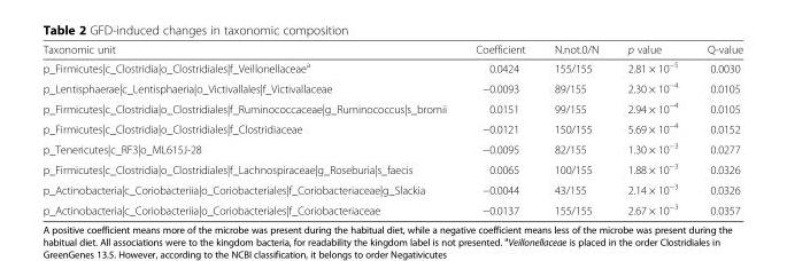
<table><thead><tr><td>Taxonomic unit</td><td>Coefficient</td><td>N.not.0/N</td><td>p value</td><td>Q-value</td></tr></thead><tbody><tr><td>p_Firmicutes|c_Clostridia|o_Clostridiales|f_Veillonellaceae<sup>a</sup></td><td>0.0424</td><td>155/155</td><td>2.81 × 10<sup>−5</sup></td><td>0.0030</td></tr><tr><td>p_Lentisphaerae|c_Lentisphaeria|o_Victivallales|f_Victivallaceae</td><td>−0.0093</td><td>89/155</td><td>2.30 × 10<sup>−4</sup></td><td>0.0105</td></tr><tr><td>p_Firmicutes|c_Clostridia|o_Clostridiales|f_Ruminococcaceae|g_Ruminococcus|s_bromii</td><td>0.0151</td><td>99/155</td><td>2.94 × 10<sup>−4</sup></td><td>0.0105</td></tr><tr><td>p_Firmicutes|c_Clostridia|o_Clostridiales|f_Clostridiaceae</td><td>−0.0121</td><td>150/155</td><td>5.69 × 10<sup>−4</sup></td><td>0.0152</td></tr><tr><td>p_Tenericutes|c_RF3|o_ML615J-28</td><td>−0.0095</td><td>82/155</td><td>1.30 × 10<sup>−3</sup></td><td>0.0277</td></tr><tr><td>p_Firmicutes|c_Clostridia|o_Clostridiales|f_Lachnospiraceae|g_Roseburia|s_faecis</td><td>0.0065</td><td>100/155</td><td>1.88 × 10<sup>−3</sup></td><td>0.0326</td></tr><tr><td>p_Actinobacteria|c_Coriobacteriia|o_Coriobacteriales|f_Coriobacteriaceae|g_Slackia</td><td>−0.0044</td><td>43/155</td><td>2.14 × 10<sup>−3</sup></td><td>0.0326</td></tr><tr><td>p_Actinobacteria|c_Coriobacteriia|o_Coriobacteriales|f_Coriobacteriaceae</td><td>−0.0137</td><td>155/155</td><td>2.67 × 10<sup>−3</sup></td><td>0.0357</td></tr></tbody></table>